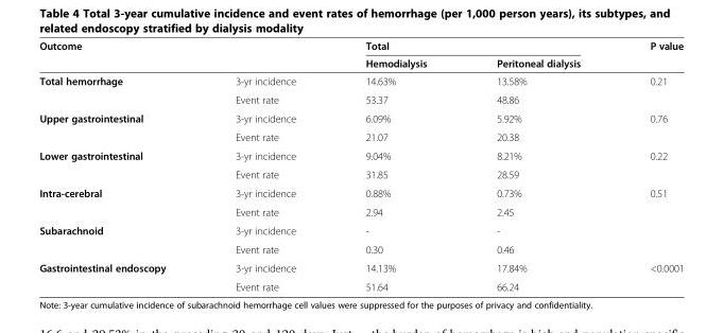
<table><thead><tr><td rowspan="2">Outcome</td><td rowspan="2"></td><td colspan="2">Total</td><td rowspan="2">P value</td></tr><tr><td>Hemodialysis</td><td>Peritoneal dialysis</td></tr></thead><tbody><tr><td rowspan="2">Total hemorrhage</td><td>3-yr incidence</td><td>14.63%</td><td>13.58%</td><td>0.21</td></tr><tr><td>Event rate</td><td>53.37</td><td>48.86</td><td></td></tr><tr><td rowspan="2">Upper gastrointestinal</td><td>3-yr incidence</td><td>6.09%</td><td>5.92%</td><td>0.76</td></tr><tr><td>Event rate</td><td>21.07</td><td>20.38</td><td></td></tr><tr><td rowspan="2">Lower gastrointestinal</td><td>3-yr incidence</td><td>9.04%</td><td>8.21%</td><td>0.22</td></tr><tr><td>Event rate</td><td>31.85</td><td>28.59</td><td></td></tr><tr><td rowspan="2">Intra-cerebral</td><td>3-yr incidence</td><td>0.88%</td><td>0.73%</td><td>0.51</td></tr><tr><td>Event rate</td><td>2.94</td><td>2.45</td><td></td></tr><tr><td rowspan="2">Subarachnoid</td><td>3-yr incidence</td><td>-</td><td>-</td><td></td></tr><tr><td>Event rate</td><td>0.30</td><td>0.46</td><td></td></tr><tr><td rowspan="2">Gastrointestinal endoscopy</td><td>3-yr incidence</td><td>14.13%</td><td>17.84%</td><td>&lt;0.0001</td></tr><tr><td>Event rate</td><td>51.64</td><td>66.24</td><td></td></tr></tbody></table>